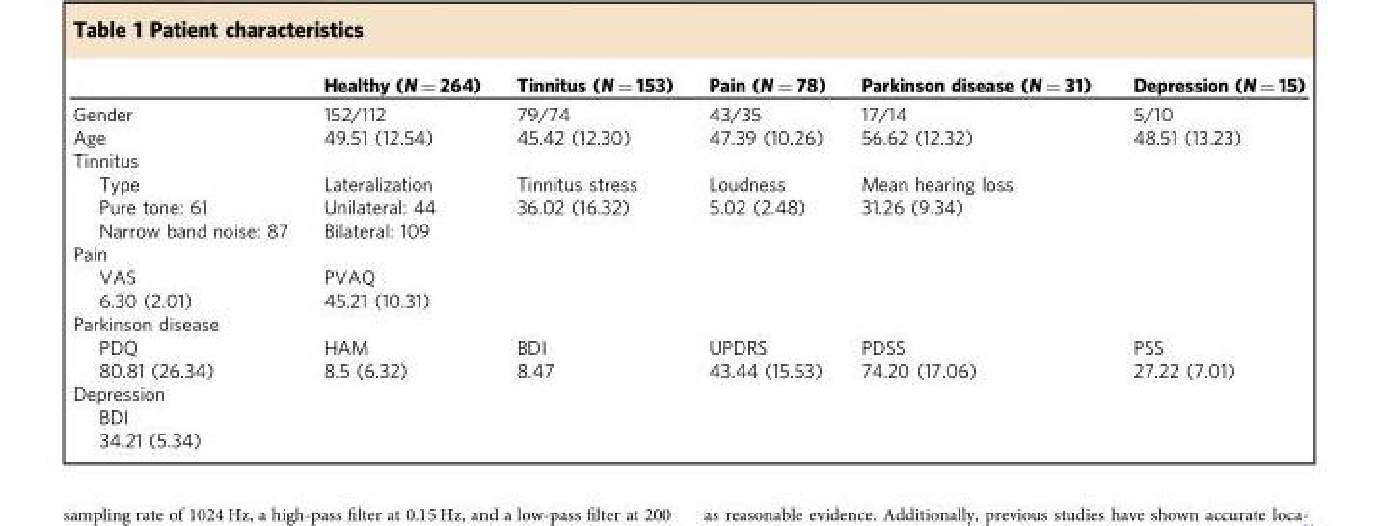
<table><thead><tr><td></td><td>Healthy (N = 264)</td><td>Tinnitus (N = 153)</td><td>Pain (N = 78)</td><td>Parkinson disease (N = 31)</td><td>Depression (N = 15)</td></tr></thead><tbody><tr><td>Gender</td><td>152/112</td><td>79/74</td><td>43/35</td><td>17/14</td><td>5/10</td></tr><tr><td>Age</td><td>49.51 (12.54)</td><td>45.42 (12.30)</td><td>47.39 (10.26)</td><td>56.62 (12.32)</td><td>48.51 (13.23)</td></tr><tr><td colspan="6">Tinnitus</td></tr><tr><td>Type</td><td>Lateralization</td><td>Tinnitus stress</td><td>Loudness</td><td>Mean hearing loss</td><td></td></tr><tr><td>Pure tone: 61</td><td>Unilateral: 44</td><td>36.02 (16.32)</td><td>5.02 (2.48)</td><td>31.26 (9.34)</td><td></td></tr><tr><td>Narrow band noise: 87</td><td>Bilateral: 109</td><td></td><td></td><td></td><td></td></tr><tr><td colspan="6">Pain</td></tr><tr><td>VAS</td><td>PVAQ</td><td></td><td></td><td></td><td></td></tr><tr><td>6.30 (2.01)</td><td>45.21 (10.31)</td><td></td><td></td><td></td><td></td></tr><tr><td colspan="6">Parkinson disease</td></tr><tr><td>PDQ</td><td>HAM</td><td>BDI</td><td>UPDRS</td><td>PDSS</td><td>PSS</td></tr><tr><td>80.81 (26.34)</td><td>8.5 (6.32)</td><td>8.47</td><td>43.44 (15.53)</td><td>74.20 (17.06)</td><td>27.22 (7.01)</td></tr><tr><td colspan="6">Depression</td></tr><tr><td colspan="6">BDI</td></tr><tr><td>34.21 (5.34)</td><td></td><td></td><td></td><td></td><td></td></tr></tbody></table>